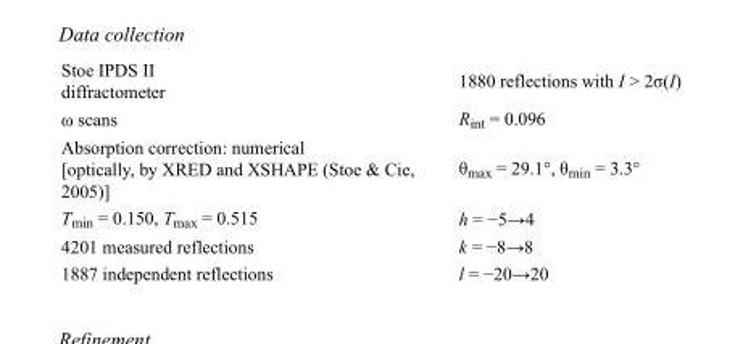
<table><tbody><tr><td>Stoe IPDS II diffractometer</td><td>1880 reflections with I &gt; 2σ(I)</td></tr><tr><td>ω scans</td><td>R<sub>int</sub> = 0.096</td></tr><tr><td>Absorption correction: numerical [optically, by XRED and XSHAPE (Stoe &amp; Cie, 2005)]</td><td>θ<sub>max</sub> = 29.1°, θ<sub>min</sub> = 3.3°</td></tr><tr><td>T<sub>min</sub> = 0.150, T<sub>max</sub> = 0.515</td><td>h = −5→4</td></tr><tr><td>4201 measured reflections</td><td>k = −8→8</td></tr><tr><td>1887 independent reflections</td><td>l = −20→20</td></tr></tbody></table>